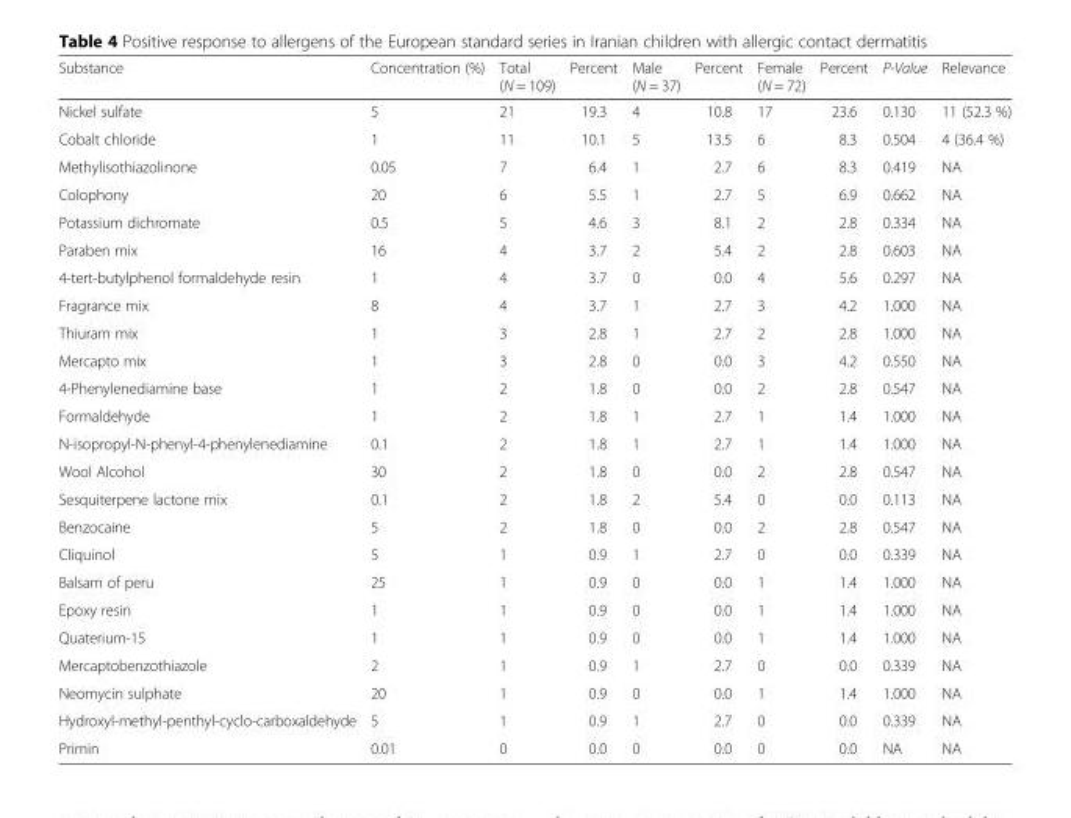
<table><thead><tr><td>Substance</td><td>Concentration (%)</td><td>Total (N = 109)</td><td>Percent</td><td>Male (N = 37)</td><td>Percent</td><td>Female (N = 72)</td><td>Percent</td><td>P-Value</td><td>Relevance</td></tr></thead><tbody><tr><td>Nickel sulfate</td><td>5</td><td>21</td><td>19.3</td><td>4</td><td>10.8</td><td>17</td><td>23.6</td><td>0.130</td><td>11 (52.3 %)</td></tr><tr><td>Cobalt chloride</td><td>1</td><td>11</td><td>10.1</td><td>5</td><td>13.5</td><td>6</td><td>8.3</td><td>0.504</td><td>4 (36.4 %)</td></tr><tr><td>Methylisothiazolinone</td><td>0.05</td><td>7</td><td>6.4</td><td>1</td><td>2.7</td><td>6</td><td>8.3</td><td>0.419</td><td>NA</td></tr><tr><td>Colophony</td><td>20</td><td>6</td><td>5.5</td><td>1</td><td>2.7</td><td>5</td><td>6.9</td><td>0.662</td><td>NA</td></tr><tr><td>Potassium dichromate</td><td>0.5</td><td>5</td><td>4.6</td><td>3</td><td>8.1</td><td>2</td><td>2.8</td><td>0.334</td><td>NA</td></tr><tr><td>Paraben mix</td><td>16</td><td>4</td><td>3.7</td><td>2</td><td>5.4</td><td>2</td><td>2.8</td><td>0.603</td><td>NA</td></tr><tr><td>4-tert-butylphenol formaldehyde resin</td><td>1</td><td>4</td><td>3.7</td><td>0</td><td>0.0</td><td>4</td><td>5.6</td><td>0.297</td><td>NA</td></tr><tr><td>Fragrance mix</td><td>8</td><td>4</td><td>3.7</td><td>1</td><td>2.7</td><td>3</td><td>4.2</td><td>1.000</td><td>NA</td></tr><tr><td>Thiuram mix</td><td>1</td><td>3</td><td>2.8</td><td>1</td><td>2.7</td><td>2</td><td>2.8</td><td>1.000</td><td>NA</td></tr><tr><td>Mercapto mix</td><td>1</td><td>3</td><td>2.8</td><td>0</td><td>0.0</td><td>3</td><td>4.2</td><td>0.550</td><td>NA</td></tr><tr><td>4-Phenylenediamine base</td><td>1</td><td>2</td><td>1.8</td><td>0</td><td>0.0</td><td>2</td><td>2.8</td><td>0.547</td><td>NA</td></tr><tr><td>Formaldehyde</td><td>1</td><td>2</td><td>1.8</td><td>1</td><td>2.7</td><td>1</td><td>1.4</td><td>1.000</td><td>NA</td></tr><tr><td>N-isopropyl-N-phenyl-4-phenylenediamine</td><td>0.1</td><td>2</td><td>1.8</td><td>1</td><td>2.7</td><td>1</td><td>1.4</td><td>1.000</td><td>NA</td></tr><tr><td>Wool Alcohol</td><td>30</td><td>2</td><td>1.8</td><td>0</td><td>0.0</td><td>2</td><td>2.8</td><td>0.547</td><td>NA</td></tr><tr><td>Sesquiterpene lactone mix</td><td>0.1</td><td>2</td><td>1.8</td><td>2</td><td>5.4</td><td>0</td><td>0.0</td><td>0.113</td><td>NA</td></tr><tr><td>Benzocaine</td><td>5</td><td>2</td><td>1.8</td><td>0</td><td>0.0</td><td>2</td><td>2.8</td><td>0.547</td><td>NA</td></tr><tr><td>Cliquinol</td><td>5</td><td>1</td><td>0.9</td><td>1</td><td>2.7</td><td>0</td><td>0.0</td><td>0.339</td><td>NA</td></tr><tr><td>Balsam of peru</td><td>25</td><td>1</td><td>0.9</td><td>0</td><td>0.0</td><td>1</td><td>1.4</td><td>1.000</td><td>NA</td></tr><tr><td>Epoxy resin</td><td>1</td><td>1</td><td>0.9</td><td>0</td><td>0.0</td><td>1</td><td>1.4</td><td>1.000</td><td>NA</td></tr><tr><td>Quaterium-15</td><td>1</td><td>1</td><td>0.9</td><td>0</td><td>0.0</td><td>1</td><td>1.4</td><td>1.000</td><td>NA</td></tr><tr><td>Mercaptobenzothiazole</td><td>2</td><td>1</td><td>0.9</td><td>1</td><td>2.7</td><td>0</td><td>0.0</td><td>0.339</td><td>NA</td></tr><tr><td>Neomycin sulphate</td><td>20</td><td>1</td><td>0.9</td><td>0</td><td>0.0</td><td>1</td><td>1.4</td><td>1.000</td><td>NA</td></tr><tr><td>Hydroxyl-methyl-penthyl-cyclo-carboxaldehyde</td><td>5</td><td>1</td><td>0.9</td><td>1</td><td>2.7</td><td>0</td><td>0.0</td><td>0.339</td><td>NA</td></tr><tr><td>Primin</td><td>0.01</td><td>0</td><td>0.0</td><td>0</td><td>0.0</td><td>0</td><td>0.0</td><td>NA</td><td>NA</td></tr></tbody></table>